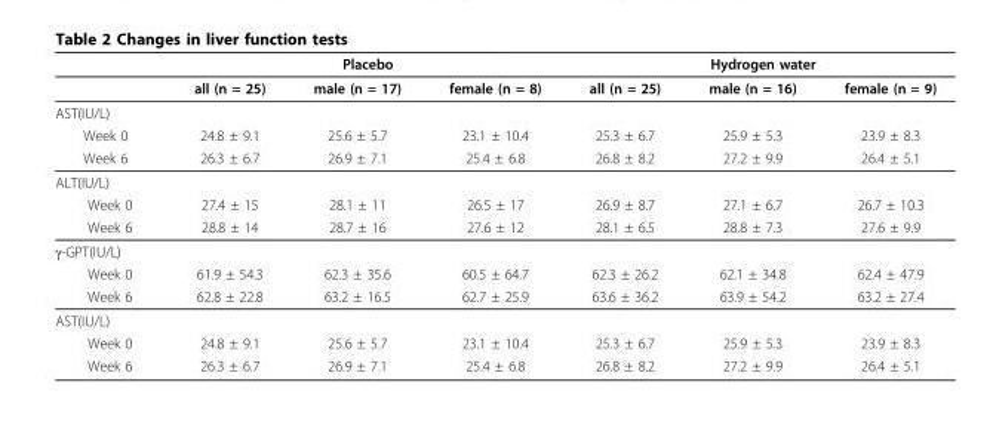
<table><thead><tr><td rowspan="2"></td><td colspan="3">Placebo</td><td colspan="3">Hydrogen water</td></tr><tr><td>all (n = 25)</td><td>male (n = 17)</td><td>female (n = 8)</td><td>all (n = 25)</td><td>male (n = 16)</td><td>female (n = 9)</td></tr></thead><tbody><tr><td colspan="7">AST(IU/L)</td></tr><tr><td>Week 0</td><td>24.8 ± 9.1</td><td>25.6 ± 5.7</td><td>23.1 ± 10.4</td><td>25.3 ± 6.7</td><td>25.9 ± 5.3</td><td>23.9 ± 8.3</td></tr><tr><td>Week 6</td><td>26.3 ± 6.7</td><td>26.9 ± 7.1</td><td>25.4 ± 6.8</td><td>26.8 ± 8.2</td><td>27.2 ± 9.9</td><td>26.4 ± 5.1</td></tr><tr><td colspan="7">ALT(IU/L)</td></tr><tr><td>Week 0</td><td>27.4 ± 15</td><td>28.1 ± 11</td><td>26.5 ± 17</td><td>26.9 ± 8.7</td><td>27.1 ± 6.7</td><td>26.7 ± 10.3</td></tr><tr><td>Week 6</td><td>28.8 ± 14</td><td>28.7 ± 16</td><td>27.6 ± 12</td><td>28.1 ± 6.5</td><td>28.8 ± 7.3</td><td>27.6 ± 9.9</td></tr><tr><td colspan="7">γ-GPT(IU/L)</td></tr><tr><td>Week 0</td><td>61.9 ± 54.3</td><td>62.3 ± 35.6</td><td>60.5 ± 64.7</td><td>62.3 ± 26.2</td><td>62.1 ± 34.8</td><td>62.4 ± 47.9</td></tr><tr><td>Week 6</td><td>62.8 ± 22.8</td><td>63.2 ± 16.5</td><td>62.7 ± 25.9</td><td>63.6 ± 36.2</td><td>63.9 ± 54.2</td><td>63.2 ± 27.4</td></tr><tr><td colspan="7">AST(IU/L)</td></tr><tr><td>Week 0</td><td>24.8 ± 9.1</td><td>25.6 ± 5.7</td><td>23.1 ± 10.4</td><td>25.3 ± 6.7</td><td>25.9 ± 5.3</td><td>23.9 ± 8.3</td></tr><tr><td>Week 6</td><td>26.3 ± 6.7</td><td>26.9 ± 7.1</td><td>25.4 ± 6.8</td><td>26.8 ± 8.2</td><td>27.2 ± 9.9</td><td>26.4 ± 5.1</td></tr></tbody></table>